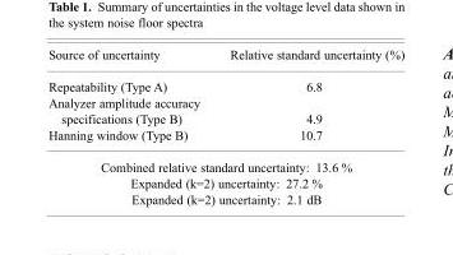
<table><thead><tr><td>Source of uncertainty</td><td>Relative standard uncertainty (%)</td></tr></thead><tbody><tr><td>Repeatability (Type A)</td><td>6.8</td></tr><tr><td>Analyzer amplitude accuracy specifications (Type B)</td><td>4.9</td></tr><tr><td>Hanning window (Type B)</td><td>10.7</td></tr><tr><td colspan="2">Combined relative standard uncertainty: 13.6 %</td></tr><tr><td colspan="2">Expanded (k=2) uncertainty: 27.2 %</td></tr><tr><td colspan="2">Expanded (k=2) uncertainty: 2.1 dB</td></tr></tbody></table>